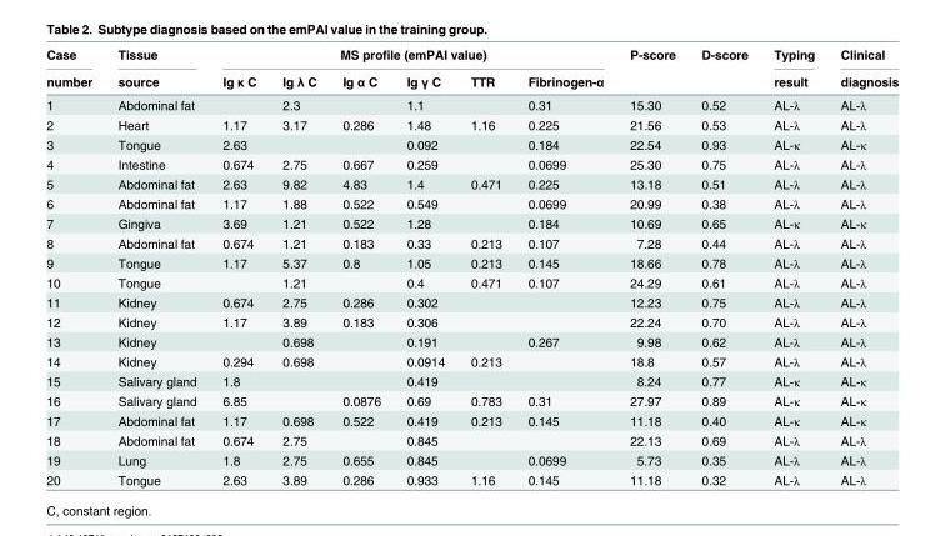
<table><thead><tr><td rowspan="2">Case number</td><td rowspan="2">Tissue source</td><td colspan="6">MS profile (emPAI value)</td><td rowspan="2">P-score</td><td rowspan="2">D-score</td><td rowspan="2">Typing result</td><td rowspan="2">Clinical diagnosis</td></tr><tr><td>Ig κ C</td><td>Ig λ C</td><td>Ig α C</td><td>Ig γ C</td><td>TTR</td><td>Fibrinogen-α</td></tr></thead><tbody><tr><td>1</td><td>Abdominal fat</td><td></td><td>2.3</td><td></td><td>1.1</td><td></td><td>0.31</td><td>15.30</td><td>0.52</td><td>AL-λ</td><td>AL-λ</td></tr><tr><td>2</td><td>Heart</td><td>1.17</td><td>3.17</td><td>0.286</td><td>1.48</td><td>1.16</td><td>0.225</td><td>21.56</td><td>0.53</td><td>AL-λ</td><td>AL-λ</td></tr><tr><td>3</td><td>Tongue</td><td>2.63</td><td></td><td></td><td>0.092</td><td></td><td>0.184</td><td>22.54</td><td>0.93</td><td>AL-κ</td><td>AL-κ</td></tr><tr><td>4</td><td>Intestine</td><td>0.674</td><td>2.75</td><td>0.667</td><td>0.259</td><td></td><td>0.0699</td><td>25.30</td><td>0.75</td><td>AL-λ</td><td>AL-λ</td></tr><tr><td>5</td><td>Abdominal fat</td><td>2.63</td><td>9.82</td><td>4.83</td><td>1.4</td><td>0.471</td><td>0.225</td><td>13.18</td><td>0.51</td><td>AL-λ</td><td>AL-λ</td></tr><tr><td>6</td><td>Abdominal fat</td><td>1.17</td><td>1.88</td><td>0.522</td><td>0.549</td><td></td><td>0.0699</td><td>20.99</td><td>0.38</td><td>AL-λ</td><td>AL-λ</td></tr><tr><td>7</td><td>Gingiva</td><td>3.69</td><td>1.21</td><td>0.522</td><td>1.28</td><td></td><td>0.184</td><td>10.69</td><td>0.65</td><td>AL-κ</td><td>AL-κ</td></tr><tr><td>8</td><td>Abdominal fat</td><td>0.674</td><td>1.21</td><td>0.183</td><td>0.33</td><td>0.213</td><td>0.107</td><td>7.28</td><td>0.44</td><td>AL-λ</td><td>AL-λ</td></tr><tr><td>9</td><td>Tongue</td><td>1.17</td><td>5.37</td><td>0.8</td><td>1.05</td><td>0.213</td><td>0.145</td><td>18.66</td><td>0.78</td><td>AL-λ</td><td>AL-λ</td></tr><tr><td>10</td><td>Tongue</td><td></td><td>1.21</td><td></td><td>0.4</td><td>0.471</td><td>0.107</td><td>24.29</td><td>0.61</td><td>AL-λ</td><td>AL-λ</td></tr><tr><td>11</td><td>Kidney</td><td>0.674</td><td>2.75</td><td>0.286</td><td>0.302</td><td></td><td></td><td>12.23</td><td>0.75</td><td>AL-λ</td><td>AL-λ</td></tr><tr><td>12</td><td>Kidney</td><td>1.17</td><td>3.89</td><td>0.183</td><td>0.306</td><td></td><td></td><td>22.24</td><td>0.70</td><td>AL-λ</td><td>AL-λ</td></tr><tr><td>13</td><td>Kidney</td><td></td><td>0.698</td><td></td><td>0.191</td><td></td><td>0.267</td><td>9.98</td><td>0.62</td><td>AL-λ</td><td>AL-λ</td></tr><tr><td>14</td><td>Kidney</td><td>0.294</td><td>0.698</td><td></td><td>0.0914</td><td>0.213</td><td></td><td>18.8</td><td>0.57</td><td>AL-λ</td><td>AL-λ</td></tr><tr><td>15</td><td>Salivary gland</td><td>1.8</td><td></td><td></td><td>0.419</td><td></td><td></td><td>8.24</td><td>0.77</td><td>AL-κ</td><td>AL-κ</td></tr><tr><td>16</td><td>Salivary gland</td><td>6.85</td><td></td><td>0.0876</td><td>0.69</td><td>0.783</td><td>0.31</td><td>27.97</td><td>0.89</td><td>AL-κ</td><td>AL-κ</td></tr><tr><td>17</td><td>Abdominal fat</td><td>1.17</td><td>0.698</td><td>0.522</td><td>0.419</td><td>0.213</td><td>0.145</td><td>11.18</td><td>0.40</td><td>AL-κ</td><td>AL-κ</td></tr><tr><td>18</td><td>Abdominal fat</td><td>0.674</td><td>2.75</td><td></td><td>0.845</td><td></td><td></td><td>22.13</td><td>0.69</td><td>AL-λ</td><td>AL-λ</td></tr><tr><td>19</td><td>Lung</td><td>1.8</td><td>2.75</td><td>0.655</td><td>0.845</td><td></td><td>0.0699</td><td>5.73</td><td>0.35</td><td>AL-λ</td><td>AL-λ</td></tr><tr><td>20</td><td>Tongue</td><td>2.63</td><td>3.89</td><td>0.286</td><td>0.933</td><td>1.16</td><td>0.145</td><td>11.18</td><td>0.32</td><td>AL-λ</td><td>AL-λ</td></tr></tbody></table>